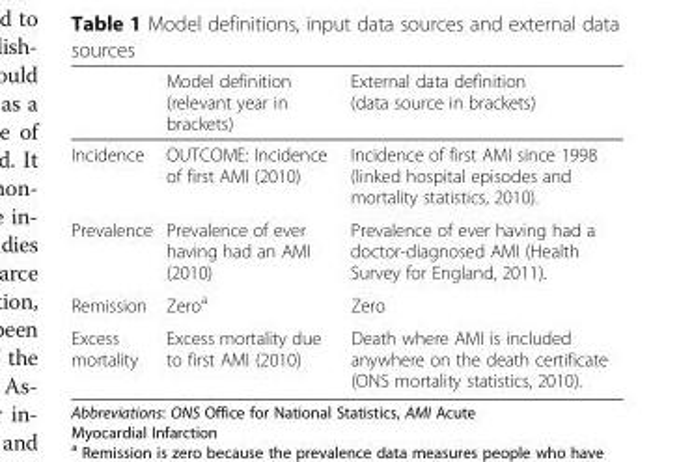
<table><thead><tr><td></td><td>Model definition (relevant year in brackets)</td><td>External data definition (data source in brackets)</td></tr></thead><tbody><tr><td>Incidence</td><td>OUTCOME: Incidence of first AMI (2010)</td><td>Incidence of first AMI since 1998 (linked hospital episodes and mortality statistics, 2010).</td></tr><tr><td>Prevalence</td><td>Prevalence of ever having had an AMI (2010)</td><td>Prevalence of ever having had a doctor-diagnosed AMI (Health Survey for England, 2011).</td></tr><tr><td>Remission</td><td>Zero<sup>a</sup></td><td>Zero</td></tr><tr><td>Excess mortality</td><td>Excess mortality due to first AMI (2010)</td><td>Death where AMI is included anywhere on the death certificate (ONS mortality statistics, 2010).</td></tr></tbody></table>